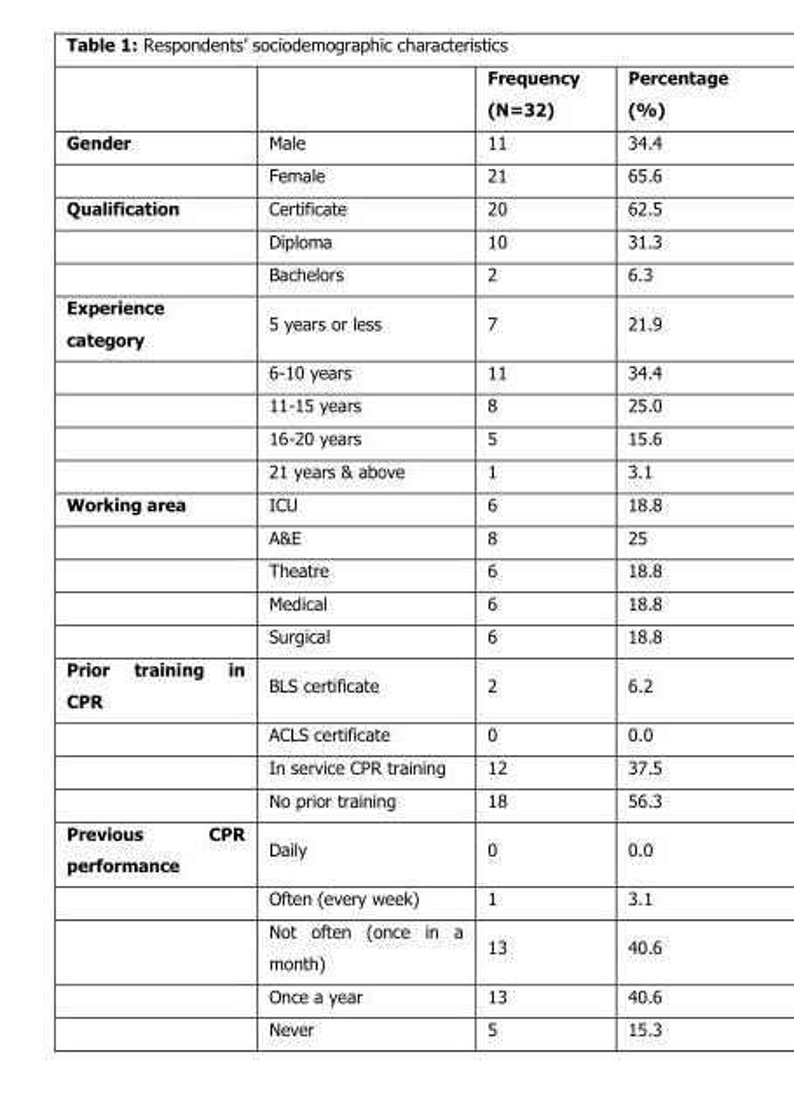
<table><thead><tr><td></td><td></td><td>Frequency (N=32)</td><td>Percentage (%)</td></tr></thead><tbody><tr><td rowspan="2">Gender</td><td>Male</td><td>11</td><td>34.4</td></tr><tr><td>Female</td><td>21</td><td>65.6</td></tr><tr><td rowspan="3">Qualification</td><td>Certificate</td><td>20</td><td>62.5</td></tr><tr><td>Diploma</td><td>10</td><td>31.3</td></tr><tr><td>Bachelors</td><td>2</td><td>6.3</td></tr><tr><td rowspan="5">Experience category</td><td>5 years or less</td><td>7</td><td>21.9</td></tr><tr><td>6-10 years</td><td>11</td><td>34.4</td></tr><tr><td>11-15 years</td><td>8</td><td>25.0</td></tr><tr><td>16-20 years</td><td>5</td><td>15.6</td></tr><tr><td>21 years &amp; above</td><td>1</td><td>3.1</td></tr><tr><td rowspan="5">Working area</td><td>ICU</td><td>6</td><td>18.8</td></tr><tr><td>A&amp;E</td><td>8</td><td>25</td></tr><tr><td>Theatre</td><td>6</td><td>18.8</td></tr><tr><td>Medical</td><td>6</td><td>18.8</td></tr><tr><td>Surgical</td><td>6</td><td>18.8</td></tr><tr><td rowspan="4">Prior training in CPR</td><td>BLS certificate</td><td>2</td><td>6.2</td></tr><tr><td>ACLS certificate</td><td>0</td><td>0.0</td></tr><tr><td>In service CPR training</td><td>12</td><td>37.5</td></tr><tr><td>No prior training</td><td>18</td><td>56.3</td></tr><tr><td rowspan="5">Previous CPR performance</td><td>Daily</td><td>0</td><td>0.0</td></tr><tr><td>Often (every week)</td><td>1</td><td>3.1</td></tr><tr><td>Not often (once in a month)</td><td>13</td><td>40.6</td></tr><tr><td>Once a year</td><td>13</td><td>40.6</td></tr><tr><td>Never</td><td>5</td><td>15.3</td></tr></tbody></table>